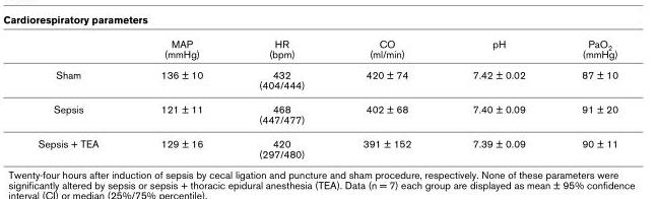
<table><thead><tr><td></td><td>MAP (mmHg)</td><td>HR (bpm)</td><td>CO (ml/min)</td><td>pH</td><td>PaO<sub>2</sub> (mmHg)</td></tr></thead><tbody><tr><td>Sham</td><td>136 ± 10</td><td>432 (404/444)</td><td>420 ± 74</td><td>7.42 ± 0.02</td><td>87 ± 10</td></tr><tr><td>Sepsis</td><td>121 ± 11</td><td>468 (447/477)</td><td>402 ± 68</td><td>7.40 ± 0.09</td><td>91 ± 20</td></tr><tr><td>Sepsis + TEA</td><td>129 ± 16</td><td>420 (297/480)</td><td>391 ± 152</td><td>7.39 ± 0.09</td><td>90 ± 11</td></tr></tbody></table>